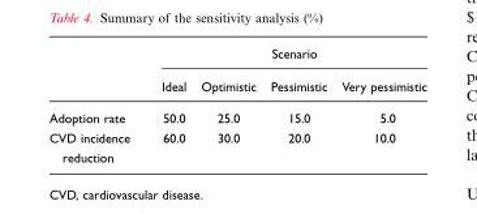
<table><thead><tr><td rowspan="2"></td><td colspan="4">Scenario</td></tr><tr><td>Ideal</td><td>Optimistic</td><td>Pessimistic</td><td>Very pessimistic</td></tr></thead><tbody><tr><td>Adoption rate</td><td>50.0</td><td>25.0</td><td>15.0</td><td>5.0</td></tr><tr><td>CVD incidence reduction</td><td>60.0</td><td>30.0</td><td>20.0</td><td>10.0</td></tr></tbody></table>